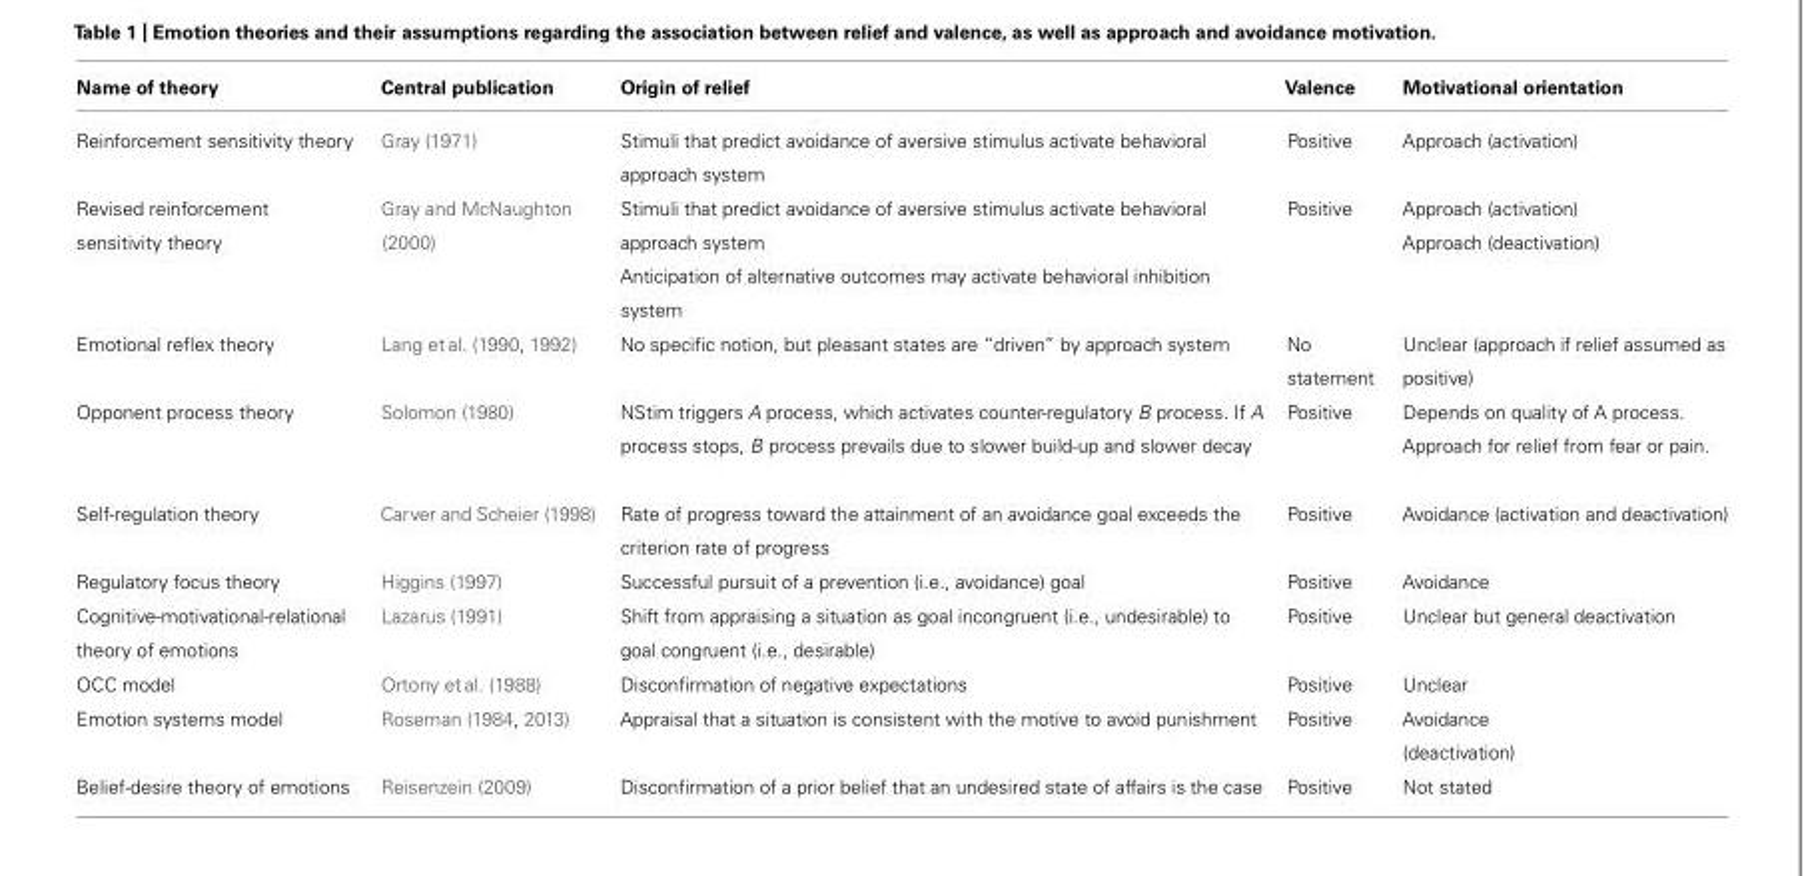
<table><thead><tr><td>Name of theory</td><td>Central publication</td><td>Origin of relief</td><td>Valence</td><td>Motivational orientation</td></tr></thead><tbody><tr><td>Reinforcement sensitivity theory</td><td>Gray (1971)</td><td>Stimuli that predict avoidance of aversive stimulus activate behavioral approach system</td><td>Positive</td><td>Approach (activation)</td></tr><tr><td>Revised reinforcement sensitivity theory</td><td>Gray and McNaughton (2000)</td><td>Stimuli that predict avoidance of aversive stimulus activate behavioral approach system Anticipation of alternative outcomes may activate behavioral inhibition system</td><td>Positive</td><td>Approach (activation) Approach (deactivation)</td></tr><tr><td>Emotional reflex theory</td><td>Lang et al. (1990, 1992)</td><td>No specific notion, but pleasant states are “driven” by approach system</td><td>No statement</td><td>Unclear (approach if relief assumed as positive)</td></tr><tr><td>Opponent process theory</td><td>Solomon (1980)</td><td>NStim triggers A process, which activates counter-regulatory B process. If A process stops, B process prevails due to slower build-up and slower decay</td><td>Positive</td><td>Depends on quality of A process. Approach for relief from fear or pain.</td></tr><tr><td>Self-regulation theory</td><td>Carver and Scheier (1998)</td><td>Rate of progress toward the attainment of an avoidance goal exceeds the criterion rate of progress</td><td>Positive</td><td>Avoidance (activation and deactivation)</td></tr><tr><td>Regulatory focus theory</td><td>Higgins (1997)</td><td>Successful pursuit of a prevention (i.e., avoidance) goal</td><td>Positive</td><td>Avoidance</td></tr><tr><td>Cognitive-motivational-relational theory of emotions</td><td>Lazarus (1991)</td><td>Shift from appraising a situation as goal incongruent (i.e., undesirable) to goal congruent (i.e., desirable)</td><td>Positive</td><td>Unclear but general deactivation</td></tr><tr><td>OCC model</td><td>Ortony et al. (1988)</td><td>Disconfirmation of negative expectations</td><td>Positive</td><td>Unclear</td></tr><tr><td>Emotion systems model</td><td>Roseman (1984, 2013)</td><td>Appraisal that a situation is consistent with the motive to avoid punishment</td><td>Positive</td><td>Avoidance (deactivation)</td></tr><tr><td>Belief-desire theory of emotions</td><td>Reisenzein (2009)</td><td>Disconfirmation of a prior belief that an undesired state of affairs is the case</td><td>Positive</td><td>Not stated</td></tr></tbody></table>